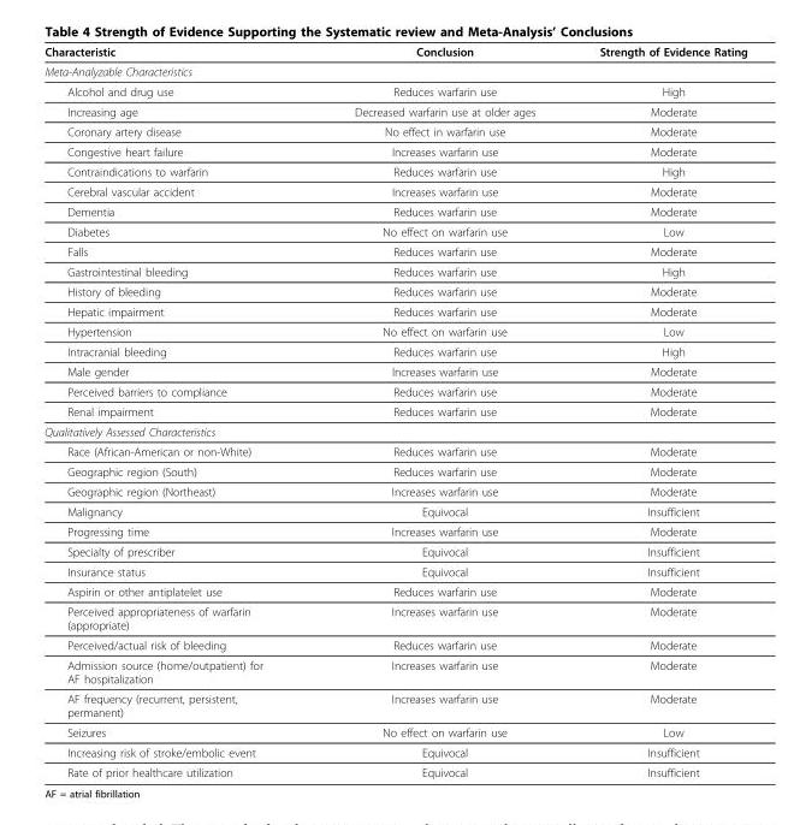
<table><thead><tr><td>Characteristic</td><td>Conclusion</td><td>Strength of Evidence Rating</td></tr></thead><tbody><tr><td colspan="3">Meta-Analyzable Characteristics</td></tr><tr><td>Alcohol and drug use</td><td>Reduces warfarin use</td><td>High</td></tr><tr><td>Increasing age</td><td>Decreased warfarin use at older ages</td><td>Moderate</td></tr><tr><td>Coronary artery disease</td><td>No effect in warfarin use</td><td>Moderate</td></tr><tr><td>Congestive heart failure</td><td>Increases warfarin use</td><td>Moderate</td></tr><tr><td>Contraindications to warfarin</td><td>Reduces warfarin use</td><td>High</td></tr><tr><td>Cerebral vascular accident</td><td>Increases warfarin use</td><td>Moderate</td></tr><tr><td>Dementia</td><td>Reduces warfarin use</td><td>Moderate</td></tr><tr><td>Diabetes</td><td>No effect on warfarin use</td><td>Low</td></tr><tr><td>Falls</td><td>Reduces warfarin use</td><td>Moderate</td></tr><tr><td>Gastrointestinal bleeding</td><td>Reduces warfarin use</td><td>High</td></tr><tr><td>History of bleeding</td><td>Reduces warfarin use</td><td>Moderate</td></tr><tr><td>Hepatic impairment</td><td>Reduces warfarin use</td><td>Moderate</td></tr><tr><td>Hypertension</td><td>No effect on warfarin use</td><td>Low</td></tr><tr><td>Intracranial bleeding</td><td>Reduces warfarin use</td><td>High</td></tr><tr><td>Male gender</td><td>Increases warfarin use</td><td>Moderate</td></tr><tr><td>Perceived barriers to compliance</td><td>Reduces warfarin use</td><td>Moderate</td></tr><tr><td>Renal impairment</td><td>Reduces warfarin use</td><td>Moderate</td></tr><tr><td colspan="3">Qualitatively Assessed Characteristics</td></tr><tr><td>Race (African-American or non-White)</td><td>Reduces warfarin use</td><td>Moderate</td></tr><tr><td>Geographic region (South)</td><td>Reduces warfarin use</td><td>Moderate</td></tr><tr><td>Geographic region (Northeast)</td><td>Increases warfarin use</td><td>Moderate</td></tr><tr><td>Malignancy</td><td>Equivocal</td><td>Insufficient</td></tr><tr><td>Progressing time</td><td>Increases warfarin use</td><td>Moderate</td></tr><tr><td>Specialty of prescriber</td><td>Equivocal</td><td>Insufficient</td></tr><tr><td>Insurance status</td><td>Equivocal</td><td>Insufficient</td></tr><tr><td>Aspirin or other antiplatelet use</td><td>Reduces warfarin use</td><td>Moderate</td></tr><tr><td>Perceived appropriateness of warfarin (appropriate)</td><td>Increases warfarin use</td><td>Moderate</td></tr><tr><td>Perceived/actual risk of bleeding</td><td>Reduces warfarin use</td><td>Moderate</td></tr><tr><td>Admission source (home/outpatient) for AF hospitalization</td><td>Increases warfarin use</td><td>Moderate</td></tr><tr><td>AF frequency (recurrent, persistent, permanent)</td><td>Increases warfarin use</td><td>Moderate</td></tr><tr><td>Seizures</td><td>No effect on warfarin use</td><td>Low</td></tr><tr><td>Increasing risk of stroke/embolic event</td><td>Equivocal</td><td>Insufficient</td></tr><tr><td>Rate of prior healthcare utilization</td><td>Equivocal</td><td>Insufficient</td></tr></tbody></table>